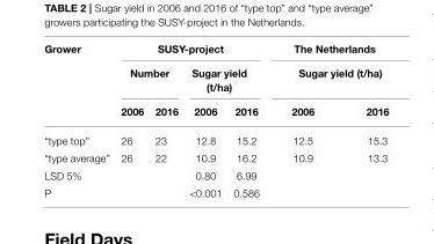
<table><thead><tr><td rowspan="3">Grower</td><td colspan="4">SUSY-project</td><td rowspan="2" colspan="2">The Netherlands Sugar yield (t/ha)</td></tr><tr><td colspan="2">Number</td><td colspan="2">Sugar yield (t/ha)</td></tr><tr><td>2006</td><td>2016</td><td>2006</td><td>2016</td><td>2006</td><td>2016</td></tr></thead><tbody><tr><td>“type top”</td><td>26</td><td>23</td><td>12.8</td><td>15.2</td><td>12.5</td><td>15.3</td></tr><tr><td>“type average”</td><td>26</td><td>22</td><td>10.9</td><td>16.2</td><td>10.9</td><td>13.3</td></tr><tr><td>LSD 5%</td><td></td><td></td><td>0.80</td><td>6.99</td><td></td><td></td></tr><tr><td>P</td><td></td><td></td><td>&lt;0.001</td><td>0.586</td><td></td><td></td></tr></tbody></table>